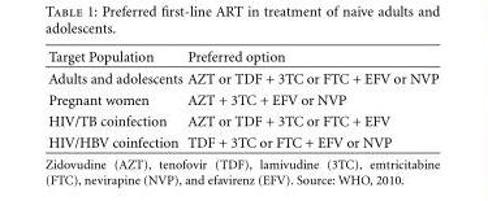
<table><thead><tr><td>Target Population</td><td>Preferred option</td></tr></thead><tbody><tr><td>Adults and adolescents</td><td>AZT or TDF + 3TC or FTC + EFV or NVP</td></tr><tr><td>Pregnant women</td><td>AZT + 3TC + EFV or NVP</td></tr><tr><td>HIV/TB coinfection</td><td>AZT or TDF + 3TC or FTC + EFV</td></tr><tr><td>HIV/HBV coinfection</td><td>TDF + 3TC or FTC + EFV or NVP</td></tr></tbody></table>